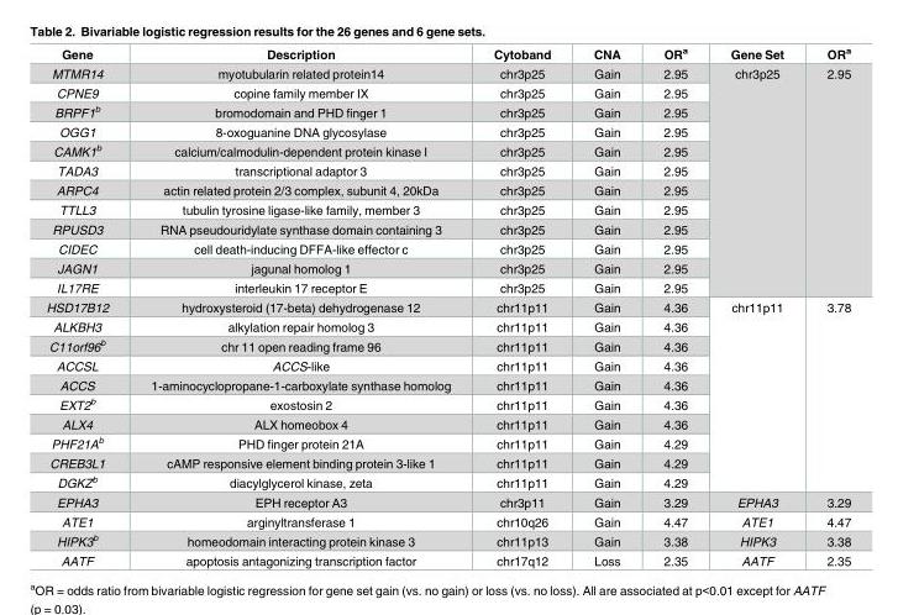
<table><thead><tr><td>Gene</td><td>Description</td><td>Cytoband</td><td>CNA</td><td>OR<sup>a</sup></td><td>Gene Set</td><td>OR<sup>a</sup></td></tr></thead><tbody><tr><td>MTMR14</td><td>myotubularin related protein14</td><td>chr3p25</td><td>Gain</td><td>2.95</td><td rowspan="12">chr3p25</td><td rowspan="12">2.95</td></tr><tr><td>CPNE9</td><td>copine family member IX</td><td>chr3p25</td><td>Gain</td><td>2.95</td></tr><tr><td>BRPF1<sup>b</sup></td><td>bromodomain and PHD finger 1</td><td>chr3p25</td><td>Gain</td><td>2.95</td></tr><tr><td>OGG1</td><td>8-oxoguanine DNA glycosylase</td><td>chr3p25</td><td>Gain</td><td>2.95</td></tr><tr><td>CAMK1<sup>b</sup></td><td>calcium/calmodulin-dependent protein kinase I</td><td>chr3p25</td><td>Gain</td><td>2.95</td></tr><tr><td>TADA3</td><td>transcriptional adaptor 3</td><td>chr3p25</td><td>Gain</td><td>2.95</td></tr><tr><td>ARPC4</td><td>actin related protein 2/3 complex, subunit 4, 20kDa</td><td>chr3p25</td><td>Gain</td><td>2.95</td></tr><tr><td>TTLL3</td><td>tubulin tyrosine ligase-like family, member 3</td><td>chr3p25</td><td>Gain</td><td>2.95</td></tr><tr><td>RPUSD3</td><td>RNA pseudouridylate synthase domain containing 3</td><td>chr3p25</td><td>Gain</td><td>2.95</td></tr><tr><td>CIDEC</td><td>cell death-inducing DFFA-like effector c</td><td>chr3p25</td><td>Gain</td><td>2.95</td></tr><tr><td>JAGN1</td><td>jagunal homolog 1</td><td>chr3p25</td><td>Gain</td><td>2.95</td></tr><tr><td>IL17RE</td><td>interleukin 17 receptor E</td><td>chr3p25</td><td>Gain</td><td>2.95</td></tr><tr><td>HSD17B12</td><td>hydroxysteroid (17-beta) dehydrogenase 12</td><td>chr11p11</td><td>Gain</td><td>4.36</td><td rowspan="10">chr11p11</td><td rowspan="10">3.78</td></tr><tr><td>ALKBH3</td><td>alkylation repair homolog 3</td><td>chr11p11</td><td>Gain</td><td>4.36</td></tr><tr><td>C11orf96<sup>b</sup></td><td>chr 11 open reading frame 96</td><td>chr11p11</td><td>Gain</td><td>4.36</td></tr><tr><td>ACCSL</td><td>ACCS-like</td><td>chr11p11</td><td>Gain</td><td>4.36</td></tr><tr><td>ACCS</td><td>1-aminocyclopropane-1-carboxylate synthase homolog</td><td>chr11p11</td><td>Gain</td><td>4.36</td></tr><tr><td>EXT2<sup>b</sup></td><td>exostosin 2</td><td>chr11p11</td><td>Gain</td><td>4.36</td></tr><tr><td>ALX4</td><td>ALX homeobox 4</td><td>chr11p11</td><td>Gain</td><td>4.36</td></tr><tr><td>PHF21A<sup>b</sup></td><td>PHD finger protein 21A</td><td>chr11p11</td><td>Gain</td><td>4.29</td></tr><tr><td>CREB3L1</td><td>cAMP responsive element binding protein 3-like 1</td><td>chr11p11</td><td>Gain</td><td>4.29</td></tr><tr><td>DGKZ<sup>b</sup></td><td>diacylglycerol kinase, zeta</td><td>chr11p11</td><td>Gain</td><td>4.29</td></tr><tr><td>EPHA3</td><td>EPH receptor A3</td><td>chr3p11</td><td>Gain</td><td>3.29</td><td>EPHA3</td><td>3.29</td></tr><tr><td>ATE1</td><td>arginyltransferase 1</td><td>chr10q26</td><td>Gain</td><td>4.47</td><td>ATE1</td><td>4.47</td></tr><tr><td>HIPK3<sup>b</sup></td><td>homeodomain interacting protein kinase 3</td><td>chr11p13</td><td>Gain</td><td>3.38</td><td>HIPK3</td><td>3.38</td></tr><tr><td>AATF</td><td>apoptosis antagonizing transcription factor</td><td>chr17q12</td><td>Loss</td><td>2.35</td><td>AATF</td><td>2.35</td></tr></tbody></table>